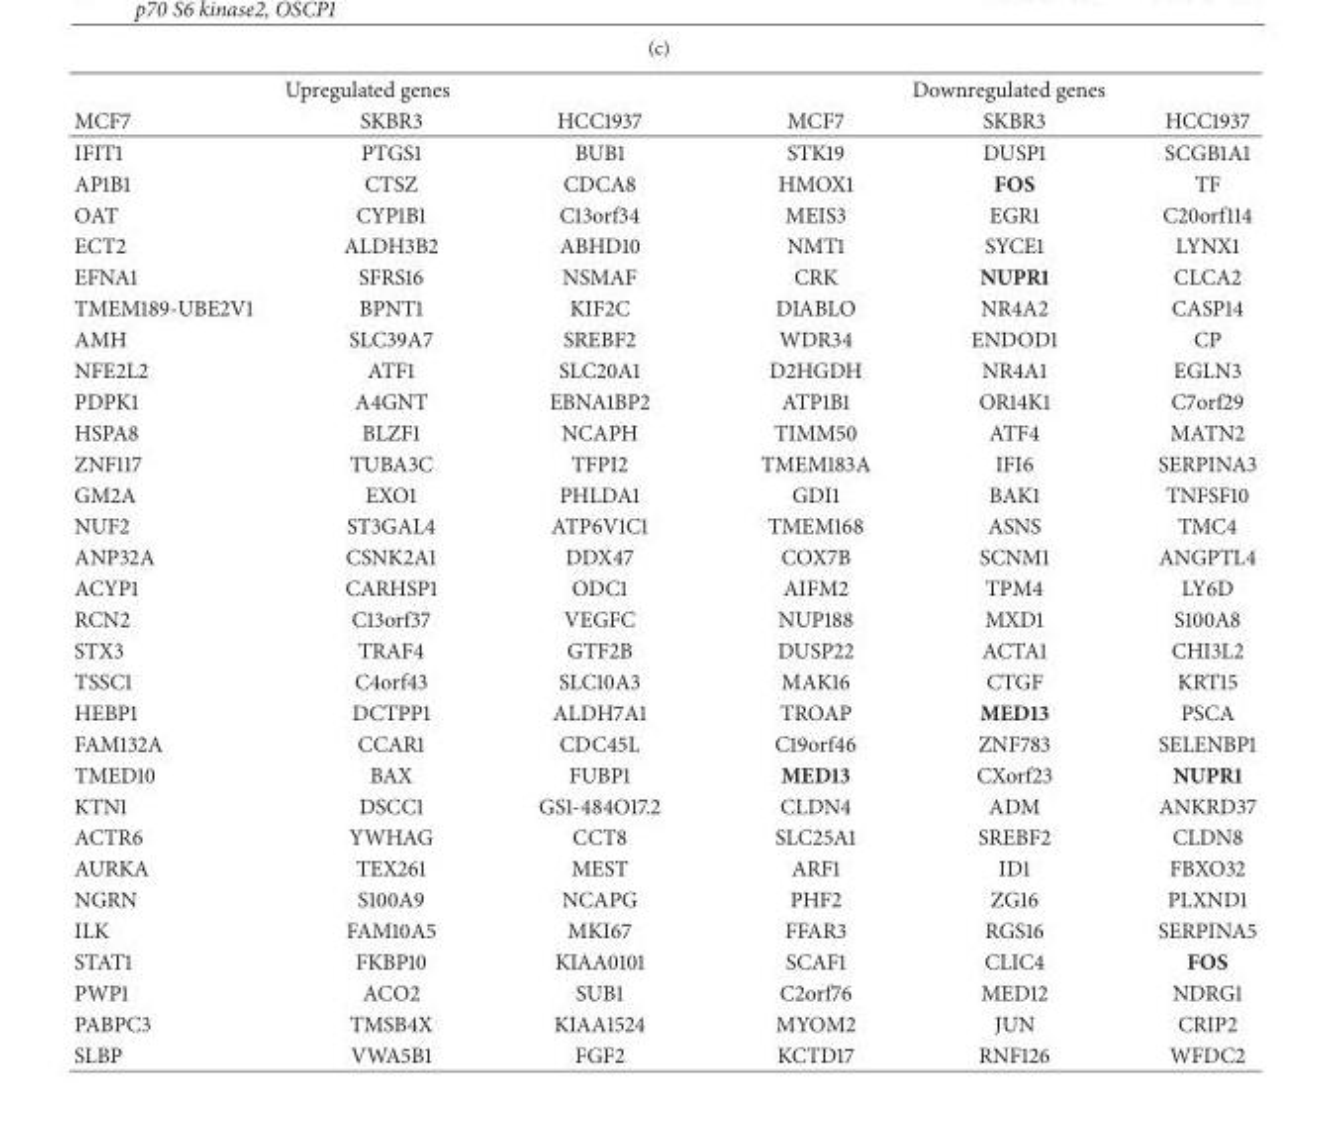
<table><thead><tr><td colspan="3">Upregulated genes</td><td colspan="3">Downregulated genes</td></tr><tr><td>MCF7</td><td>SKBR3</td><td>HCC1937</td><td>MCF7</td><td>SKBR3</td><td>HCC1937</td></tr></thead><tbody><tr><td>IFIT1</td><td>PTGS1</td><td>BUB1</td><td>STK19</td><td>DUSP1</td><td>SCGB1A1</td></tr><tr><td>AP1B1</td><td>CTSZ</td><td>CDCA8</td><td>HMOX1</td><td>FOS</td><td>TF</td></tr><tr><td>OAT</td><td>CYP1B1</td><td>C13orf34</td><td>MEIS3</td><td>EGR1</td><td>C20orf114</td></tr><tr><td>ECT2</td><td>ALDH3B2</td><td>ABHD10</td><td>NMT1</td><td>SYCE1</td><td>LYNX1</td></tr><tr><td>EFNA1</td><td>SFRS16</td><td>NSMAF</td><td>CRK</td><td>NUPR1</td><td>CLCA2</td></tr><tr><td>TMEM189-UBE2V1</td><td>BPNT1</td><td>KIF2C</td><td>DIABLO</td><td>NR4A2</td><td>CASP14</td></tr><tr><td>AMH</td><td>SLC39A7</td><td>SREBF2</td><td>WDR34</td><td>ENDOD1</td><td>CP</td></tr><tr><td>NFE2L2</td><td>ATF1</td><td>SLC20A1</td><td>D2HGDH</td><td>NR4A1</td><td>EGLN3</td></tr><tr><td>PDPK1</td><td>A4GNT</td><td>EBNA1BP2</td><td>ATP1B1</td><td>OR14K1</td><td>C7orf29</td></tr><tr><td>HSPA8</td><td>BLZF1</td><td>NCAPH</td><td>TIMM50</td><td>ATF4</td><td>MATN2</td></tr><tr><td>ZNF117</td><td>TUBA3C</td><td>TFPI2</td><td>TMEM183A</td><td>IFI6</td><td>SERPINA3</td></tr><tr><td>GM2A</td><td>EXO1</td><td>PHLDA1</td><td>GDI1</td><td>BAK1</td><td>TNFSF10</td></tr><tr><td>NUF2</td><td>ST3GAL4</td><td>ATP6V1C1</td><td>TMEM168</td><td>ASNS</td><td>TMC4</td></tr><tr><td>ANP32A</td><td>CSNK2A1</td><td>DDX47</td><td>COX7B</td><td>SCNM1</td><td>ANGPTL4</td></tr><tr><td>ACYP1</td><td>CARHSP1</td><td>ODC1</td><td>AIFM2</td><td>TPM4</td><td>LY6D</td></tr><tr><td>RCN2</td><td>C13orf37</td><td>VEGFC</td><td>NUP188</td><td>MXD1</td><td>S100A8</td></tr><tr><td>STX3</td><td>TRAF4</td><td>GTF2B</td><td>DUSP22</td><td>ACTA1</td><td>CHI3L2</td></tr><tr><td>TSSC1</td><td>C4orf43</td><td>SLC10A3</td><td>MAK16</td><td>CTGF</td><td>KRT15</td></tr><tr><td>HEBP1</td><td>DCTPP1</td><td>ALDH7A1</td><td>TROAP</td><td>MED13</td><td>PSCA</td></tr><tr><td>FAM132A</td><td>CCAR1</td><td>CDC45L</td><td>C19orf46</td><td>ZNF783</td><td>SELENBP1</td></tr><tr><td>TMED10</td><td>BAX</td><td>FUBP1</td><td>MED13</td><td>CXorf23</td><td>NUPR1</td></tr><tr><td>KTN1</td><td>DSCC1</td><td>GS1-484O17.2</td><td>CLDN4</td><td>ADM</td><td>ANKRD37</td></tr><tr><td>ACTR6</td><td>YWHAG</td><td>CCT8</td><td>SLC25A1</td><td>SREBF2</td><td>CLDN8</td></tr><tr><td>AURKA</td><td>TEX261</td><td>MEST</td><td>ARF1</td><td>ID1</td><td>FBXO32</td></tr><tr><td>NGRN</td><td>S100A9</td><td>NCAPG</td><td>PHF2</td><td>ZG16</td><td>PLXND1</td></tr><tr><td>ILK</td><td>FAM10A5</td><td>MKI67</td><td>FFAR3</td><td>RGS16</td><td>SERPINA5</td></tr><tr><td>STAT1</td><td>FKBP10</td><td>KIAA0101</td><td>SCAF1</td><td>CLIC4</td><td>FOS</td></tr><tr><td>PWP1</td><td>ACO2</td><td>SUB1</td><td>C2orf76</td><td>MED12</td><td>NDRG1</td></tr><tr><td>PABPC3</td><td>TMSB4X</td><td>KIAA1524</td><td>MYOM2</td><td>JUN</td><td>CRIP2</td></tr><tr><td>SLBP</td><td>VWA5B1</td><td>FGF2</td><td>KCTD17</td><td>RNF126</td><td>WFDC2</td></tr></tbody></table>